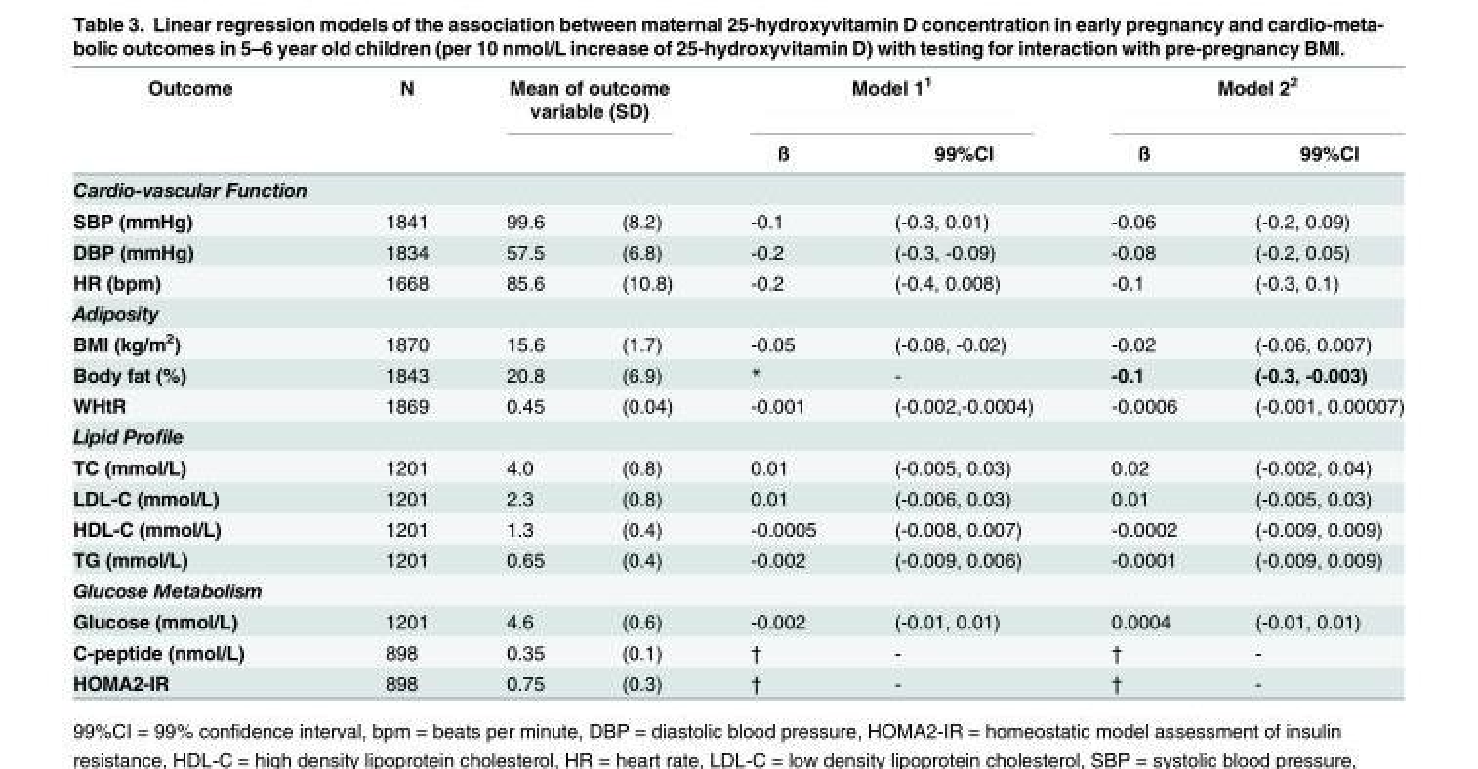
<table><thead><tr><td rowspan="2">Outcome</td><td rowspan="2">N</td><td colspan="2">Mean of outcome variable (SD)</td><td colspan="2">Model 1<sup>1</sup></td><td colspan="2">Model 2<sup>2</sup></td></tr><tr><td></td><td></td><td>ß</td><td>99%CI</td><td>ß</td><td>99%CI</td></tr></thead><tbody><tr><td colspan="8">Cardio-vascular Function</td></tr><tr><td>SBP (mmHg)</td><td>1841</td><td>99.6</td><td>(8.2)</td><td>-0.1</td><td>(-0.3, 0.01)</td><td>-0.06</td><td>(-0.2, 0.09)</td></tr><tr><td>DBP (mmHg)</td><td>1834</td><td>57.5</td><td>(6.8)</td><td>-0.2</td><td>(-0.3, -0.09)</td><td>-0.08</td><td>(-0.2, 0.05)</td></tr><tr><td>HR (bpm)</td><td>1668</td><td>85.6</td><td>(10.8)</td><td>-0.2</td><td>(-0.4, 0.008)</td><td>-0.1</td><td>(-0.3, 0.1)</td></tr><tr><td colspan="8">Adiposity</td></tr><tr><td>BMI (kg/m<sup>2</sup>)</td><td>1870</td><td>15.6</td><td>(1.7)</td><td>-0.05</td><td>(-0.08, -0.02)</td><td>-0.02</td><td>(-0.06, 0.007)</td></tr><tr><td>Body fat (%)</td><td>1843</td><td>20.8</td><td>(6.9)</td><td>*</td><td>-</td><td>-0.1</td><td>(-0.3, -0.003)</td></tr><tr><td>WHtR</td><td>1869</td><td>0.45</td><td>(0.04)</td><td>-0.001</td><td>(-0.002,-0.0004)</td><td>-0.0006</td><td>(-0.001, 0.00007)</td></tr><tr><td colspan="8">Lipid Profile</td></tr><tr><td>TC (mmol/L)</td><td>1201</td><td>4.0</td><td>(0.8)</td><td>0.01</td><td>(-0.005, 0.03)</td><td>0.02</td><td>(-0.002, 0.04)</td></tr><tr><td>LDL-C (mmol/L)</td><td>1201</td><td>2.3</td><td>(0.8)</td><td>0.01</td><td>(-0.006, 0.03)</td><td>0.01</td><td>(-0.005, 0.03)</td></tr><tr><td>HDL-C (mmol/L)</td><td>1201</td><td>1.3</td><td>(0.4)</td><td>-0.0005</td><td>(-0.008, 0.007)</td><td>-0.0002</td><td>(-0.009, 0.009)</td></tr><tr><td>TG (mmol/L)</td><td>1201</td><td>0.65</td><td>(0.4)</td><td>-0.002</td><td>(-0.009, 0.006)</td><td>-0.0001</td><td>(-0.009, 0.009)</td></tr><tr><td colspan="8">Glucose Metabolism</td></tr><tr><td>Glucose (mmol/L)</td><td>1201</td><td>4.6</td><td>(0.6)</td><td>-0.002</td><td>(-0.01, 0.01)</td><td>0.0004</td><td>(-0.01, 0.01)</td></tr><tr><td>C-peptide (nmol/L)</td><td>898</td><td>0.35</td><td>(0.1)</td><td>†</td><td>-</td><td>†</td><td>-</td></tr><tr><td>HOMA2-IR</td><td>898</td><td>0.75</td><td>(0.3)</td><td>†</td><td>-</td><td>†</td><td>-</td></tr></tbody></table>